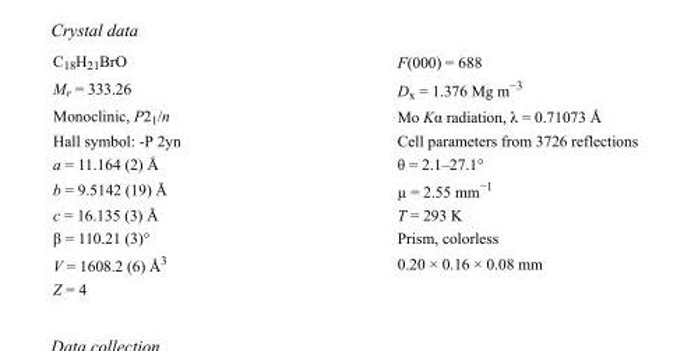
<table><tbody><tr><td>C<sub>18</sub>H<sub>21</sub>BrO</td><td>F(000) = 688</td></tr><tr><td>M<sub>r</sub> = 333.26</td><td>D<sub>x</sub> = 1.376 Mg m<sup>−3</sup></td></tr><tr><td>Monoclinic, P2<sub>1</sub>/n</td><td>Mo Kα radiation, λ = 0.71073 Å</td></tr><tr><td>Hall symbol: -P 2yn</td><td>Cell parameters from 3726 reflections</td></tr><tr><td>a = 11.164 (2) Å</td><td>θ = 2.1–27.1°</td></tr><tr><td>b = 9.5142 (19) Å</td><td>µ = 2.55 mm<sup>−1</sup></td></tr><tr><td>c = 16.135 (3) Å</td><td>T = 293 K</td></tr><tr><td>β = 110.21 (3)°</td><td>Prism, colorless</td></tr><tr><td>V = 1608.2 (6) Å<sup>3</sup></td><td>0.20 × 0.16 × 0.08 mm</td></tr><tr><td>Z = 4</td><td></td></tr></tbody></table>